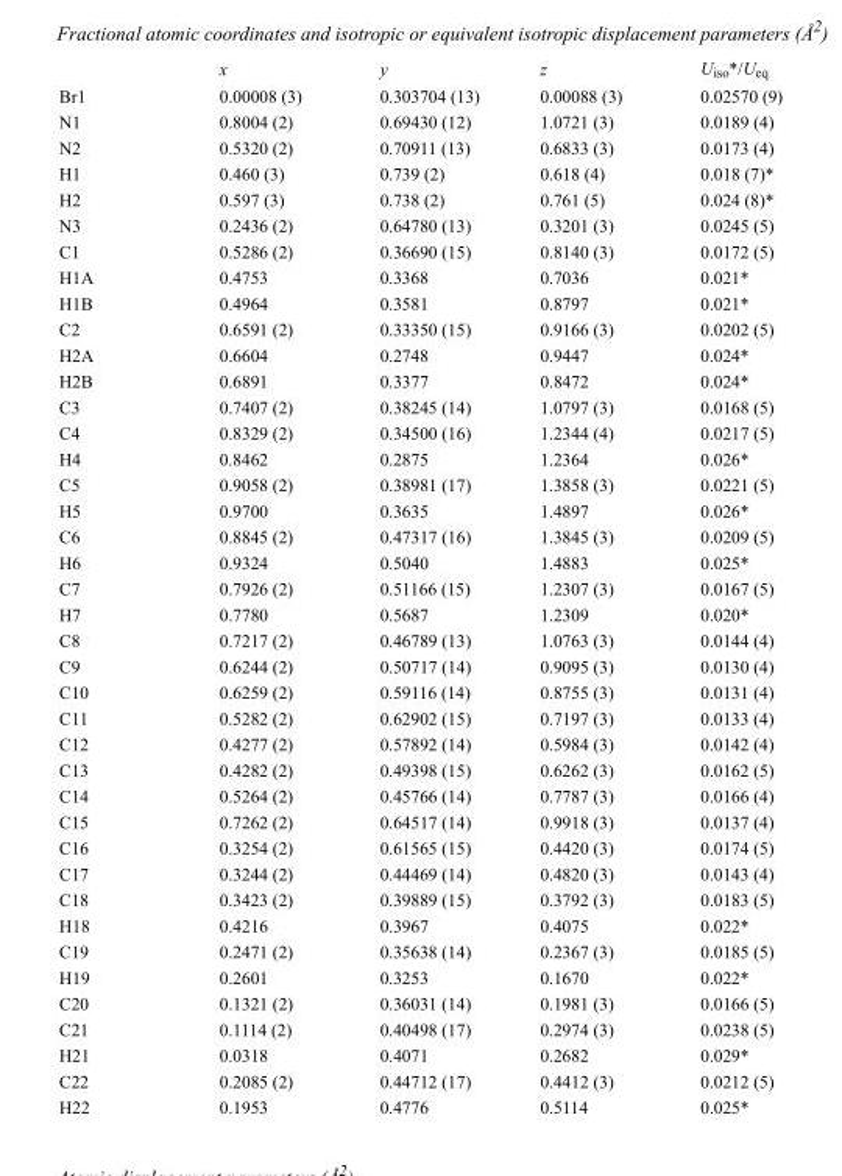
<table><thead><tr><td></td><td>x</td><td>y</td><td>z</td><td>U<sub>iso</sub>*/U<sub>eq</sub></td></tr></thead><tbody><tr><td>Br1</td><td>0.00008 (3)</td><td>0.303704 (13)</td><td>0.00088 (3)</td><td>0.02570 (9)</td></tr><tr><td>N1</td><td>0.8004 (2)</td><td>0.69430 (12)</td><td>1.0721 (3)</td><td>0.0189 (4)</td></tr><tr><td>N2</td><td>0.5320 (2)</td><td>0.70911 (13)</td><td>0.6833 (3)</td><td>0.0173 (4)</td></tr><tr><td>H1</td><td>0.460 (3)</td><td>0.739 (2)</td><td>0.618 (4)</td><td>0.018 (7)*</td></tr><tr><td>H2</td><td>0.597 (3)</td><td>0.738 (2)</td><td>0.761 (5)</td><td>0.024 (8)*</td></tr><tr><td>N3</td><td>0.2436 (2)</td><td>0.64780 (13)</td><td>0.3201 (3)</td><td>0.0245 (5)</td></tr><tr><td>C1</td><td>0.5286 (2)</td><td>0.36690 (15)</td><td>0.8140 (3)</td><td>0.0172 (5)</td></tr><tr><td>H1A</td><td>0.4753</td><td>0.3368</td><td>0.7036</td><td>0.021*</td></tr><tr><td>H1B</td><td>0.4964</td><td>0.3581</td><td>0.8797</td><td>0.021*</td></tr><tr><td>C2</td><td>0.6591 (2)</td><td>0.33350 (15)</td><td>0.9166 (3)</td><td>0.0202 (5)</td></tr><tr><td>H2A</td><td>0.6604</td><td>0.2748</td><td>0.9447</td><td>0.024*</td></tr><tr><td>H2B</td><td>0.6891</td><td>0.3377</td><td>0.8472</td><td>0.024*</td></tr><tr><td>C3</td><td>0.7407 (2)</td><td>0.38245 (14)</td><td>1.0797 (3)</td><td>0.0168 (5)</td></tr><tr><td>C4</td><td>0.8329 (2)</td><td>0.34500 (16)</td><td>1.2344 (4)</td><td>0.0217 (5)</td></tr><tr><td>H4</td><td>0.8462</td><td>0.2875</td><td>1.2364</td><td>0.026*</td></tr><tr><td>C5</td><td>0.9058 (2)</td><td>0.38981 (17)</td><td>1.3858 (3)</td><td>0.0221 (5)</td></tr><tr><td>H5</td><td>0.9700</td><td>0.3635</td><td>1.4897</td><td>0.026*</td></tr><tr><td>C6</td><td>0.8845 (2)</td><td>0.47317 (16)</td><td>1.3845 (3)</td><td>0.0209 (5)</td></tr><tr><td>H6</td><td>0.9324</td><td>0.5040</td><td>1.4883</td><td>0.025*</td></tr><tr><td>C7</td><td>0.7926 (2)</td><td>0.51166 (15)</td><td>1.2307 (3)</td><td>0.0167 (5)</td></tr><tr><td>H7</td><td>0.7780</td><td>0.5687</td><td>1.2309</td><td>0.020*</td></tr><tr><td>C8</td><td>0.7217 (2)</td><td>0.46789 (13)</td><td>1.0763 (3)</td><td>0.0144 (4)</td></tr><tr><td>C9</td><td>0.6244 (2)</td><td>0.50717 (14)</td><td>0.9095 (3)</td><td>0.0130 (4)</td></tr><tr><td>C10</td><td>0.6259 (2)</td><td>0.59116 (14)</td><td>0.8755 (3)</td><td>0.0131 (4)</td></tr><tr><td>C11</td><td>0.5282 (2)</td><td>0.62902 (15)</td><td>0.7197 (3)</td><td>0.0133 (4)</td></tr><tr><td>C12</td><td>0.4277 (2)</td><td>0.57892 (14)</td><td>0.5984 (3)</td><td>0.0142 (4)</td></tr><tr><td>C13</td><td>0.4282 (2)</td><td>0.49398 (15)</td><td>0.6262 (3)</td><td>0.0162 (5)</td></tr><tr><td>C14</td><td>0.5264 (2)</td><td>0.45766 (14)</td><td>0.7787 (3)</td><td>0.0166 (4)</td></tr><tr><td>C15</td><td>0.7262 (2)</td><td>0.64517 (14)</td><td>0.9918 (3)</td><td>0.0137 (4)</td></tr><tr><td>C16</td><td>0.3254 (2)</td><td>0.61565 (15)</td><td>0.4420 (3)</td><td>0.0174 (5)</td></tr><tr><td>C17</td><td>0.3244 (2)</td><td>0.44469 (14)</td><td>0.4820 (3)</td><td>0.0143 (4)</td></tr><tr><td>C18</td><td>0.3423 (2)</td><td>0.39889 (15)</td><td>0.3792 (3)</td><td>0.0183 (5)</td></tr><tr><td>H18</td><td>0.4216</td><td>0.3967</td><td>0.4075</td><td>0.022*</td></tr><tr><td>C19</td><td>0.2471 (2)</td><td>0.35638 (14)</td><td>0.2367 (3)</td><td>0.0185 (5)</td></tr><tr><td>H19</td><td>0.2601</td><td>0.3253</td><td>0.1670</td><td>0.022*</td></tr><tr><td>C20</td><td>0.1321 (2)</td><td>0.36031 (14)</td><td>0.1981 (3)</td><td>0.0166 (5)</td></tr><tr><td>C21</td><td>0.1114 (2)</td><td>0.40498 (17)</td><td>0.2974 (3)</td><td>0.0238 (5)</td></tr><tr><td>H21</td><td>0.0318</td><td>0.4071</td><td>0.2682</td><td>0.029*</td></tr><tr><td>C22</td><td>0.2085 (2)</td><td>0.44712 (17)</td><td>0.4412 (3)</td><td>0.0212 (5)</td></tr><tr><td>H22</td><td>0.1953</td><td>0.4776</td><td>0.5114</td><td>0.025*</td></tr></tbody></table>